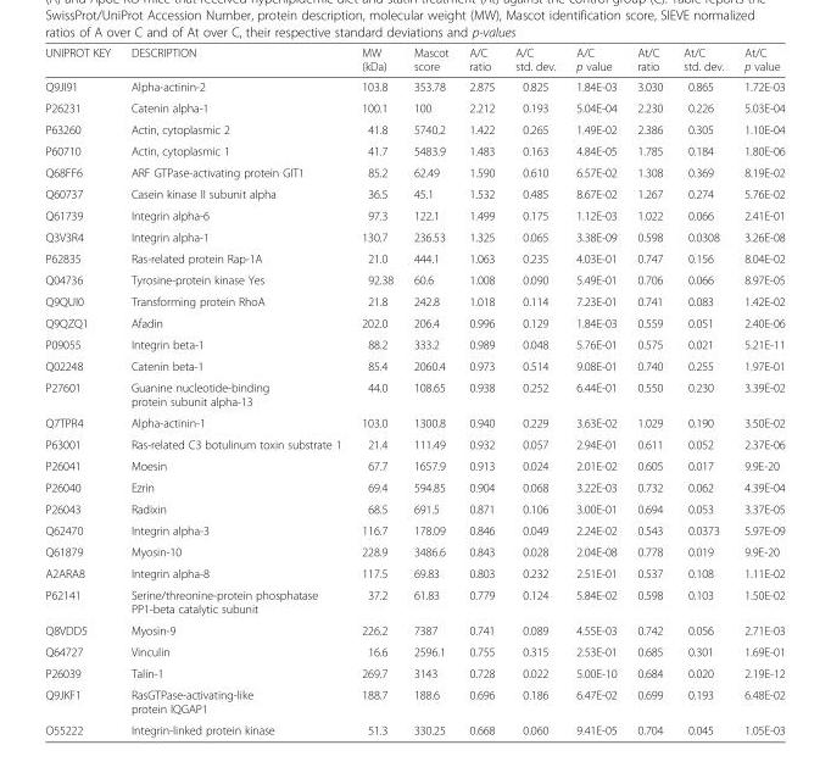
<table><thead><tr><td>UNIPROT KEY</td><td>DESCRIPTION</td><td>MW (kDa)</td><td>Mascot score</td><td>A/C ratio</td><td>A/C std. dev.</td><td>A/C p value</td><td>At/C ratio</td><td>At/C std. dev.</td><td>At/C p value</td></tr></thead><tbody><tr><td>Q9JI91</td><td>Alpha-actinin-2</td><td>103.8</td><td>353.78</td><td>2.875</td><td>0.825</td><td>1.84E-03</td><td>3.030</td><td>0.865</td><td>1.72E-03</td></tr><tr><td>P26231</td><td>Catenin alpha-1</td><td>100.1</td><td>100</td><td>2.212</td><td>0.193</td><td>5.04E-04</td><td>2.230</td><td>0.226</td><td>5.03E-04</td></tr><tr><td>P63260</td><td>Actin, cytoplasmic 2</td><td>41.8</td><td>5740.2</td><td>1.422</td><td>0.265</td><td>1.49E-02</td><td>2.386</td><td>0.305</td><td>1.10E-04</td></tr><tr><td>P60710</td><td>Actin, cytoplasmic 1</td><td>41.7</td><td>5483.9</td><td>1.483</td><td>0.163</td><td>4.84E-05</td><td>1.785</td><td>0.184</td><td>1.80E-06</td></tr><tr><td>Q68FF6</td><td>ARF GTPase-activating protein GIT1</td><td>85.2</td><td>62.49</td><td>1.590</td><td>0.610</td><td>6.57E-02</td><td>1.308</td><td>0.369</td><td>8.19E-02</td></tr><tr><td>Q60737</td><td>Casein kinase II subunit alpha</td><td>36.5</td><td>45.1</td><td>1.532</td><td>0.485</td><td>8.67E-02</td><td>1.267</td><td>0.274</td><td>5.76E-02</td></tr><tr><td>Q61739</td><td>Integrin alpha-6</td><td>97.3</td><td>122.1</td><td>1.499</td><td>0.175</td><td>1.12E-03</td><td>1.022</td><td>0.066</td><td>2.41E-01</td></tr><tr><td>Q3V3R4</td><td>Integrin alpha-1</td><td>130.7</td><td>236.53</td><td>1.325</td><td>0.065</td><td>3.38E-09</td><td>0.598</td><td>0.0308</td><td>3.26E-08</td></tr><tr><td>P62835</td><td>Ras-related protein Rap-1A</td><td>21.0</td><td>444.1</td><td>1.063</td><td>0.235</td><td>4.03E-01</td><td>0.747</td><td>0.156</td><td>8.04E-02</td></tr><tr><td>Q04736</td><td>Tyrosine-protein kinase Yes</td><td>92.38</td><td>60.6</td><td>1.008</td><td>0.090</td><td>5.49E-01</td><td>0.706</td><td>0.066</td><td>8.97E-05</td></tr><tr><td>Q9QUI0</td><td>Transforming protein RhoA</td><td>21.8</td><td>242.8</td><td>1.018</td><td>0.114</td><td>7.23E-01</td><td>0.741</td><td>0.083</td><td>1.42E-02</td></tr><tr><td>Q9QZQ1</td><td>Afadin</td><td>202.0</td><td>206.4</td><td>0.996</td><td>0.129</td><td>1.84E-03</td><td>0.559</td><td>0.051</td><td>2.40E-06</td></tr><tr><td>P09055</td><td>Integrin beta-1</td><td>88.2</td><td>333.2</td><td>0.989</td><td>0.048</td><td>5.76E-01</td><td>0.575</td><td>0.021</td><td>5.21E-11</td></tr><tr><td>Q02248</td><td>Catenin beta-1</td><td>85.4</td><td>2060.4</td><td>0.973</td><td>0.514</td><td>9.08E-01</td><td>0.740</td><td>0.255</td><td>1.97E-01</td></tr><tr><td>P27601</td><td>Guanine nucleotide-binding protein subunit alpha-13</td><td>44.0</td><td>108.65</td><td>0.938</td><td>0.252</td><td>6.44E-01</td><td>0.550</td><td>0.230</td><td>3.39E-02</td></tr><tr><td>Q7TPR4</td><td>Alpha-actinin-1</td><td>103.0</td><td>1300.8</td><td>0.940</td><td>0.229</td><td>3.63E-02</td><td>1.029</td><td>0.190</td><td>3.50E-02</td></tr><tr><td>P63001</td><td>Ras-related C3 botulinum toxin substrate 1</td><td>21.4</td><td>111.49</td><td>0.932</td><td>0.057</td><td>2.94E-01</td><td>0.611</td><td>0.052</td><td>2.37E-06</td></tr><tr><td>P26041</td><td>Moesin</td><td>67.7</td><td>1657.9</td><td>0.913</td><td>0.024</td><td>2.01E-02</td><td>0.605</td><td>0.017</td><td>9.9E-20</td></tr><tr><td>P26040</td><td>Ezrin</td><td>69.4</td><td>594.85</td><td>0.904</td><td>0.068</td><td>3.22E-03</td><td>0.732</td><td>0.062</td><td>4.39E-04</td></tr><tr><td>P26043</td><td>Radixin</td><td>68.5</td><td>691.5</td><td>0.871</td><td>0.106</td><td>3.00E-01</td><td>0.694</td><td>0.053</td><td>3.37E-05</td></tr><tr><td>Q62470</td><td>Integrin alpha-3</td><td>116.7</td><td>178.09</td><td>0.846</td><td>0.049</td><td>2.24E-02</td><td>0.543</td><td>0.0373</td><td>5.97E-09</td></tr><tr><td>Q61879</td><td>Myosin-10</td><td>228.9</td><td>3486.6</td><td>0.843</td><td>0.028</td><td>2.04E-08</td><td>0.778</td><td>0.019</td><td>9.9E-20</td></tr><tr><td>A2ARA8</td><td>Integrin alpha-8</td><td>117.5</td><td>69.83</td><td>0.803</td><td>0.232</td><td>2.51E-01</td><td>0.537</td><td>0.108</td><td>1.11E-02</td></tr><tr><td>P62141</td><td>Serine/threonine-protein phosphatase PP1-beta catalytic subunit</td><td>37.2</td><td>61.83</td><td>0.779</td><td>0.124</td><td>5.84E-02</td><td>0.598</td><td>0.103</td><td>1.50E-02</td></tr><tr><td>Q8VDD5</td><td>Myosin-9</td><td>226.2</td><td>7387</td><td>0.741</td><td>0.089</td><td>4.55E-03</td><td>0.742</td><td>0.056</td><td>2.71E-03</td></tr><tr><td>Q64727</td><td>Vinculin</td><td>16.6</td><td>2596.1</td><td>0.755</td><td>0.315</td><td>2.53E-01</td><td>0.685</td><td>0.301</td><td>1.69E-01</td></tr><tr><td>P26039</td><td>Talin-1</td><td>269.7</td><td>3143</td><td>0.728</td><td>0.022</td><td>5.00E-10</td><td>0.684</td><td>0.020</td><td>2.19E-12</td></tr><tr><td>Q9JKF1</td><td>RasGTPase-activating-like protein IQGAP1</td><td>188.7</td><td>188.6</td><td>0.696</td><td>0.186</td><td>6.47E-02</td><td>0.699</td><td>0.193</td><td>6.48E-02</td></tr><tr><td>O55222</td><td>Integrin-linked protein kinase</td><td>51.3</td><td>330.25</td><td>0.668</td><td>0.060</td><td>9.41E-05</td><td>0.704</td><td>0.045</td><td>1.05E-03</td></tr></tbody></table>